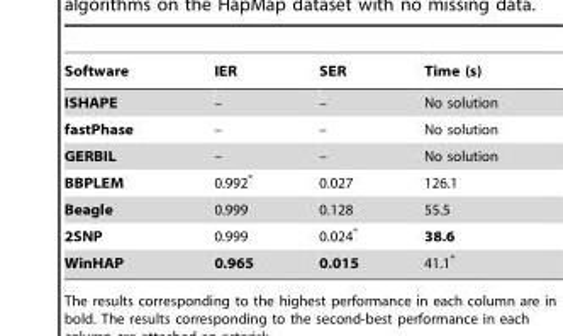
<table><thead><tr><td>Software</td><td>IER</td><td>SER</td><td>Time (s)</td></tr></thead><tbody><tr><td>ISHAPE</td><td>–</td><td>–</td><td>No solution</td></tr><tr><td>fastPhase</td><td>–</td><td>–</td><td>No solution</td></tr><tr><td>GERBIL</td><td>–</td><td>–</td><td>No solution</td></tr><tr><td>BBPLEM</td><td>0.992*</td><td>0.027</td><td>126.1</td></tr><tr><td>Beagle</td><td>0.999</td><td>0.128</td><td>55.5</td></tr><tr><td>2SNP</td><td>0.999</td><td>0.024*</td><td>38.6</td></tr><tr><td>WinHAP</td><td>0.965</td><td>0.015</td><td>41.1*</td></tr></tbody></table>